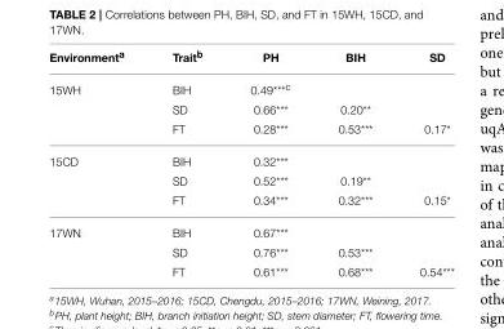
<table><thead><tr><td>Environment<sup>a</sup></td><td>Trait<sup>b</sup></td><td>PH</td><td>BIH</td><td>SD</td></tr></thead><tbody><tr><td rowspan="3">15WH</td><td>BIH</td><td>0.49<sup>***c</sup></td><td></td><td></td></tr><tr><td>SD</td><td>0.66***</td><td>0.20**</td><td></td></tr><tr><td>FT</td><td>0.28***</td><td>0.53***</td><td>0.17*</td></tr><tr><td rowspan="3">15CD</td><td>BIH</td><td>0.32***</td><td></td><td></td></tr><tr><td>SD</td><td>0.52***</td><td>0.19**</td><td></td></tr><tr><td>FT</td><td>0.34***</td><td>0.32***</td><td>0.15*</td></tr><tr><td rowspan="3">17WN</td><td>BIH</td><td>0.67***</td><td></td><td></td></tr><tr><td>SD</td><td>0.76***</td><td>0.53***</td><td></td></tr><tr><td>FT</td><td>0.61***</td><td>0.68***</td><td>0.54***</td></tr></tbody></table>